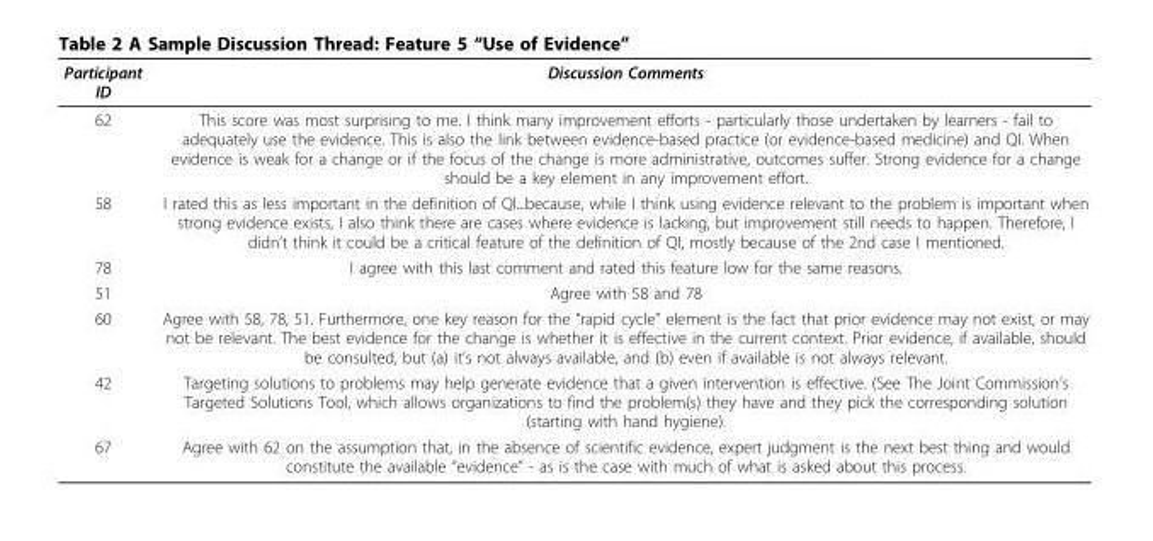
<table><thead><tr><td>Participant ID</td><td>Discussion Comments</td></tr></thead><tbody><tr><td>62</td><td>This score was most surprising to me. I think many improvement efforts - particularly those undertaken by learners - fail to adequately use the evidence. This is also the link between evidence-based practice (or evidence-based medicine) and QI. When evidence is weak for a change or if the focus of the change is more administrative, outcomes suffer. Strong evidence for a change should be a key element in any improvement effort.</td></tr><tr><td>58</td><td>I rated this as less important in the definition of QI...because, while I think using evidence relevant to the problem is important when strong evidence exists, I also think there are cases where evidence is lacking, but improvement still needs to happen. Therefore, I didn’t think it could be a critical feature of the definition of QI, mostly because of the 2nd case I mentioned.</td></tr><tr><td>78</td><td>I agree with this last comment and rated this feature low for the same reasons.</td></tr><tr><td>51</td><td>Agree with 58 and 78</td></tr><tr><td>60</td><td>Agree with 58, 78, 51. Furthermore, one key reason for the “rapid cycle” element is the fact that prior evidence may not exist, or may not be relevant. The best evidence for the change is whether it is effective in the current context. Prior evidence, if available, should be consulted, but (a) it’s not always available, and (b) even if available is not always relevant.</td></tr><tr><td>42</td><td>Targeting solutions to problems may help generate evidence that a given intervention is effective. (See The Joint Commission’s Targeted Solutions Tool, which allows organizations to find the problem(s) they have and they pick the corresponding solution (starting with hand hygiene).</td></tr><tr><td>67</td><td>Agree with 62 on the assumption that, in the absence of scientific evidence, expert judgment is the next best thing and would constitute the available “evidence” - as is the case with much of what is asked about this process.</td></tr></tbody></table>